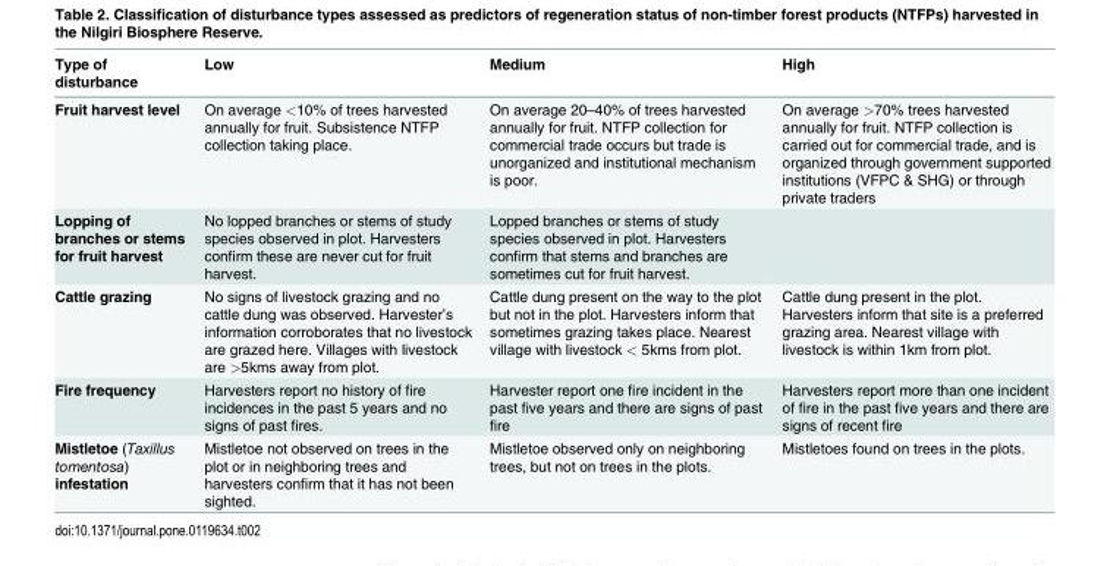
<table><thead><tr><td>Type of disturbance</td><td>Low</td><td>Medium</td><td>High</td></tr></thead><tbody><tr><td>Fruit harvest level</td><td>On average &lt;10% of trees harvested annually for fruit. Subsistence NTFP collection taking place.</td><td>On average 20–40% of trees harvested annually for fruit. NTFP collection for commercial trade occurs but trade is unorganized and institutional mechanism is poor.</td><td>On average &gt;70% trees harvested annually for fruit. NTFP collection is carried out for commercial trade, and is organized through government supported institutions (VFPC &amp; SHG) or through private traders</td></tr><tr><td>Lopping of branches or stems for fruit harvest</td><td>No lopped branches or stems of study species observed in plot. Harvesters confirm these are never cut for fruit harvest.</td><td>Lopped branches or stems of study species observed in plot. Harvesters confirm that stems and branches are sometimes cut for fruit harvest.</td><td></td></tr><tr><td>Cattle grazing</td><td>No signs of livestock grazing and no cattle dung was observed. Harvester’s information corroborates that no livestock are grazed here. Villages with livestock are &gt;5kms away from plot.</td><td>Cattle dung present on the way to the plot but not in the plot. Harvesters inform that sometimes grazing takes place. Nearest village with livestock &lt; 5kms from plot.</td><td>Cattle dung present in the plot. Harvesters inform that site is a preferred grazing area. Nearest village with livestock is within 1km from plot.</td></tr><tr><td>Fire frequency</td><td>Harvesters report no history of fire incidences in the past 5 years and no signs of past fires.</td><td>Harvester report one fire incident in the past five years and there are signs of past fire</td><td>Harvesters report more than one incident of fire in the past five years and there are signs of recent fire</td></tr><tr><td>Mistletoe (Taxillus tomentosa) infestation</td><td>Mistletoe not observed on trees in the plot or in neighboring trees and harvesters confirm that it has not been sighted.</td><td>Mistletoe observed only on neighboring trees, but not on trees in the plots.</td><td>Mistletoes found on trees in the plots.</td></tr></tbody></table>